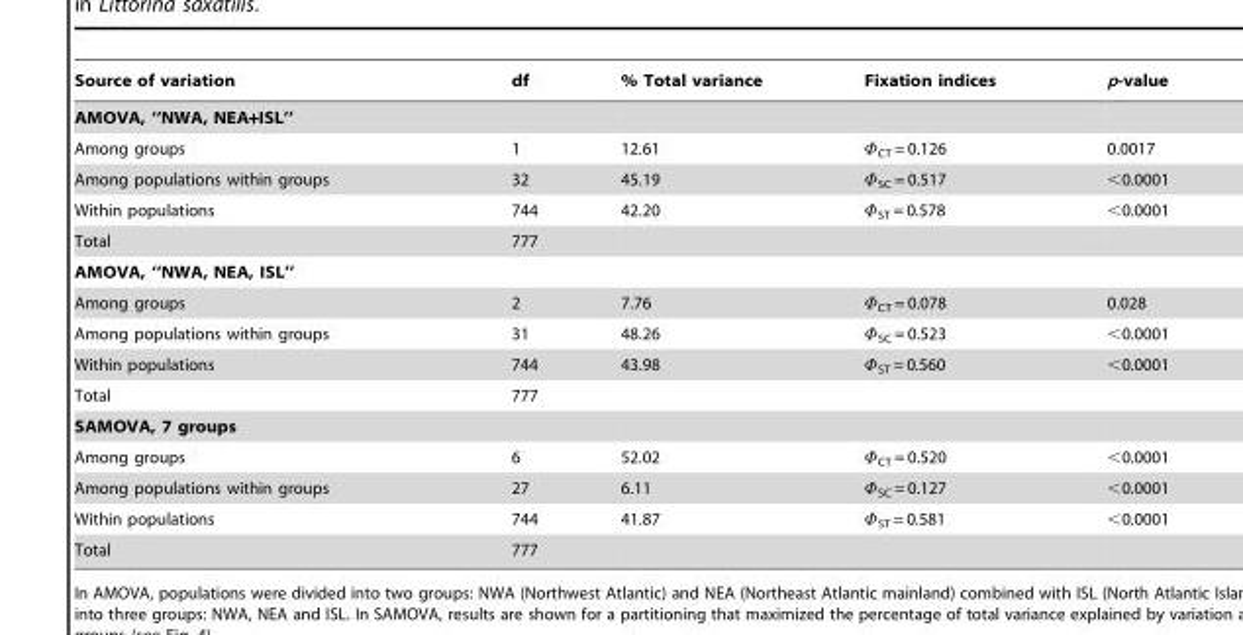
<table><thead><tr><td>Source of variation</td><td>df</td><td>% Total variance</td><td>Fixation indices</td><td>p-value</td></tr></thead><tbody><tr><td colspan="5">AMOVA, ‘‘NWA, NEA+ISL’’</td></tr><tr><td>Among groups</td><td>1</td><td>12.61</td><td>Φ<sub>CT</sub> = 0.126</td><td>0.0017</td></tr><tr><td>Among populations within groups</td><td>32</td><td>45.19</td><td>Φ<sub>SC</sub> = 0.517</td><td>&lt;0.0001</td></tr><tr><td>Within populations</td><td>744</td><td>42.20</td><td>Φ<sub>ST</sub> = 0.578</td><td>&lt;0.0001</td></tr><tr><td>Total</td><td>777</td><td></td><td></td><td></td></tr><tr><td colspan="5">AMOVA, ‘‘NWA, NEA, ISL’’</td></tr><tr><td>Among groups</td><td>2</td><td>7.76</td><td>Φ<sub>CT</sub> = 0.078</td><td>0.028</td></tr><tr><td>Among populations within groups</td><td>31</td><td>48.26</td><td>Φ<sub>SC</sub> = 0.523</td><td>&lt;0.0001</td></tr><tr><td>Within populations</td><td>744</td><td>43.98</td><td>Φ<sub>ST</sub> = 0.560</td><td>&lt;0.0001</td></tr><tr><td>Total</td><td>777</td><td></td><td></td><td></td></tr><tr><td colspan="5">SAMOVA, 7 groups</td></tr><tr><td>Among groups</td><td>6</td><td>52.02</td><td>Φ<sub>CT</sub> = 0.520</td><td>&lt;0.0001</td></tr><tr><td>Among populations within groups</td><td>27</td><td>6.11</td><td>Φ<sub>SC</sub> = 0.127</td><td>&lt;0.0001</td></tr><tr><td>Within populations</td><td>744</td><td>41.87</td><td>Φ<sub>ST</sub> = 0.581</td><td>&lt;0.0001</td></tr><tr><td>Total</td><td>777</td><td></td><td></td><td></td></tr></tbody></table>